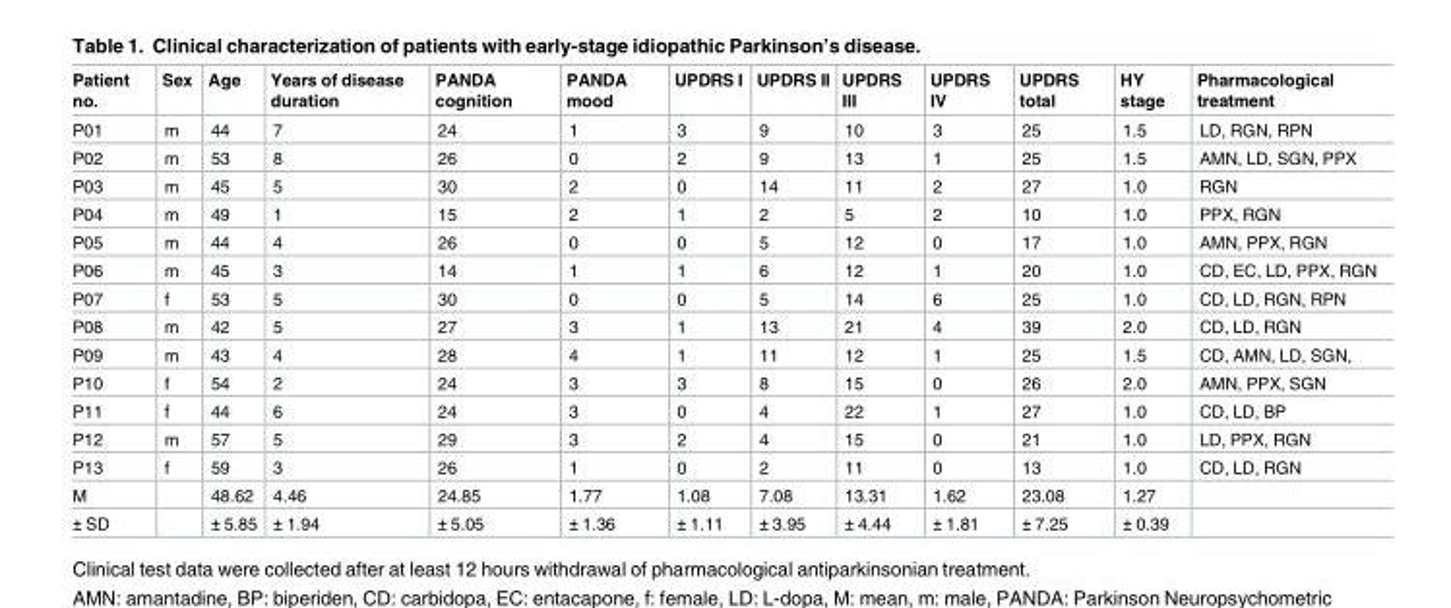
<table><thead><tr><td>Patient no.</td><td>Sex</td><td>Age</td><td>Years of disease duration</td><td>PANDA cognition</td><td>PANDA mood</td><td>UPDRS I</td><td>UPDRS II</td><td>UPDRS III</td><td>UPDRS IV</td><td>UPDRS total</td><td>HY stage</td><td>Pharmacological treatment</td></tr></thead><tbody><tr><td>P01</td><td>m</td><td>44</td><td>7</td><td>24</td><td>1</td><td>3</td><td>9</td><td>10</td><td>3</td><td>25</td><td>1.5</td><td>LD, RGN, RPN</td></tr><tr><td>P02</td><td>m</td><td>53</td><td>8</td><td>26</td><td>0</td><td>2</td><td>9</td><td>13</td><td>1</td><td>25</td><td>1.5</td><td>AMN, LD, SGN, PPX</td></tr><tr><td>P03</td><td>m</td><td>45</td><td>5</td><td>30</td><td>2</td><td>0</td><td>14</td><td>11</td><td>2</td><td>27</td><td>1.0</td><td>RGN</td></tr><tr><td>P04</td><td>m</td><td>49</td><td>1</td><td>15</td><td>2</td><td>1</td><td>2</td><td>5</td><td>2</td><td>10</td><td>1.0</td><td>PPX, RGN</td></tr><tr><td>P05</td><td>m</td><td>44</td><td>4</td><td>26</td><td>0</td><td>0</td><td>5</td><td>12</td><td>0</td><td>17</td><td>1.0</td><td>AMN, PPX, RGN</td></tr><tr><td>P06</td><td>m</td><td>45</td><td>3</td><td>14</td><td>1</td><td>1</td><td>6</td><td>12</td><td>1</td><td>20</td><td>1.0</td><td>CD, EC, LD, PPX, RGN</td></tr><tr><td>P07</td><td>f</td><td>53</td><td>5</td><td>30</td><td>0</td><td>0</td><td>5</td><td>14</td><td>6</td><td>25</td><td>1.0</td><td>CD, LD, RGN, RPN</td></tr><tr><td>P08</td><td>m</td><td>42</td><td>5</td><td>27</td><td>3</td><td>1</td><td>13</td><td>21</td><td>4</td><td>39</td><td>2.0</td><td>CD, LD, RGN</td></tr><tr><td>P09</td><td>m</td><td>43</td><td>4</td><td>28</td><td>4</td><td>1</td><td>11</td><td>12</td><td>1</td><td>25</td><td>1.5</td><td>CD, AMN, LD, SGN,</td></tr><tr><td>P10</td><td>f</td><td>54</td><td>2</td><td>24</td><td>3</td><td>3</td><td>8</td><td>15</td><td>0</td><td>26</td><td>2.0</td><td>AMN, PPX, SGN</td></tr><tr><td>P11</td><td>f</td><td>44</td><td>6</td><td>24</td><td>3</td><td>0</td><td>4</td><td>22</td><td>1</td><td>27</td><td>1.0</td><td>CD, LD, BP</td></tr><tr><td>P12</td><td>m</td><td>57</td><td>5</td><td>29</td><td>3</td><td>2</td><td>4</td><td>15</td><td>0</td><td>21</td><td>1.0</td><td>LD, PPX, RGN</td></tr><tr><td>P13</td><td>f</td><td>59</td><td>3</td><td>26</td><td>1</td><td>0</td><td>2</td><td>11</td><td>0</td><td>13</td><td>1.0</td><td>CD, LD, RGN</td></tr><tr><td>M</td><td></td><td>48.62</td><td>4.46</td><td>24.85</td><td>1.77</td><td>1.08</td><td>7.08</td><td>13.31</td><td>1.62</td><td>23.08</td><td>1.27</td><td></td></tr><tr><td>± SD</td><td></td><td>± 5.85</td><td>± 1.94</td><td>± 5.05</td><td>± 1.36</td><td>± 1.11</td><td>± 3.95</td><td>± 4.44</td><td>± 1.81</td><td>± 7.25</td><td>± 0.39</td><td></td></tr></tbody></table>